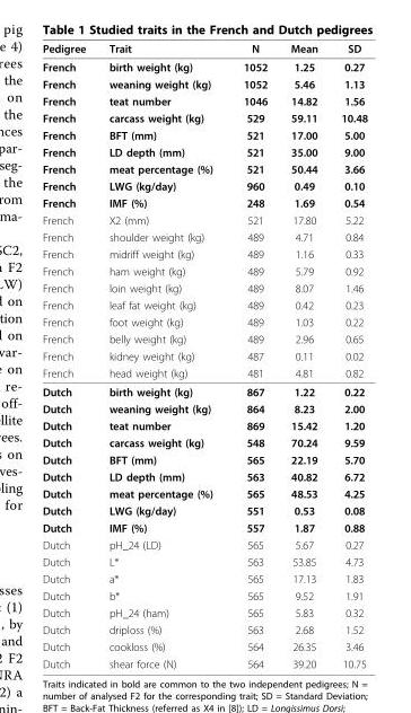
<table><thead><tr><td>Pedigree</td><td>Trait</td><td>N</td><td>Mean</td><td>SD</td></tr></thead><tbody><tr><td>French</td><td>birth weight (kg)</td><td>1052</td><td>1.25</td><td>0.27</td></tr><tr><td>French</td><td>weaning weight (kg)</td><td>1052</td><td>5.46</td><td>1.13</td></tr><tr><td>French</td><td>teat number</td><td>1046</td><td>14.82</td><td>1.56</td></tr><tr><td>French</td><td>carcass weight (kg)</td><td>529</td><td>59.11</td><td>10.48</td></tr><tr><td>French</td><td>BFT (mm)</td><td>521</td><td>17.00</td><td>5.00</td></tr><tr><td>French</td><td>LD depth (mm)</td><td>521</td><td>35.00</td><td>9.00</td></tr><tr><td>French</td><td>meat percentage (%)</td><td>521</td><td>50.44</td><td>3.66</td></tr><tr><td>French</td><td>LWG (kg/day)</td><td>960</td><td>0.49</td><td>0.10</td></tr><tr><td>French</td><td>IMF (%)</td><td>248</td><td>1.69</td><td>0.54</td></tr><tr><td>French</td><td>X2 (mm)</td><td>521</td><td>17.80</td><td>5.22</td></tr><tr><td>French</td><td>shoulder weight (kg)</td><td>489</td><td>4.71</td><td>0.84</td></tr><tr><td>French</td><td>midriff weight (kg)</td><td>489</td><td>1.16</td><td>0.33</td></tr><tr><td>French</td><td>ham weight (kg)</td><td>489</td><td>5.79</td><td>0.92</td></tr><tr><td>French</td><td>loin weight (kg)</td><td>489</td><td>8.07</td><td>1.46</td></tr><tr><td>French</td><td>leaf fat weight (kg)</td><td>489</td><td>0.42</td><td>0.23</td></tr><tr><td>French</td><td>foot weight (kg)</td><td>489</td><td>1.03</td><td>0.22</td></tr><tr><td>French</td><td>belly weight (kg)</td><td>489</td><td>2.96</td><td>0.65</td></tr><tr><td>French</td><td>kidney weight (kg)</td><td>487</td><td>0.11</td><td>0.02</td></tr><tr><td>French</td><td>head weight (kg)</td><td>481</td><td>4.81</td><td>0.82</td></tr><tr><td>Dutch</td><td>birth weight (kg)</td><td>867</td><td>1.22</td><td>0.22</td></tr><tr><td>Dutch</td><td>weaning weight (kg)</td><td>864</td><td>8.23</td><td>2.00</td></tr><tr><td>Dutch</td><td>teat number</td><td>869</td><td>15.42</td><td>1.20</td></tr><tr><td>Dutch</td><td>carcass weight (kg)</td><td>548</td><td>70.24</td><td>9.59</td></tr><tr><td>Dutch</td><td>BFT (mm)</td><td>565</td><td>22.19</td><td>5.70</td></tr><tr><td>Dutch</td><td>LD depth (mm)</td><td>563</td><td>40.82</td><td>6.72</td></tr><tr><td>Dutch</td><td>meat percentage (%)</td><td>565</td><td>48.53</td><td>4.25</td></tr><tr><td>Dutch</td><td>LWG (kg/day)</td><td>551</td><td>0.53</td><td>0.08</td></tr><tr><td>Dutch</td><td>IMF (%)</td><td>557</td><td>1.87</td><td>0.88</td></tr><tr><td>Dutch</td><td>pH_24 (LD)</td><td>565</td><td>5.67</td><td>0.27</td></tr><tr><td>Dutch</td><td>L*</td><td>563</td><td>53.85</td><td>4.73</td></tr><tr><td>Dutch</td><td>a*</td><td>565</td><td>17.13</td><td>1.83</td></tr><tr><td>Dutch</td><td>b*</td><td>565</td><td>9.52</td><td>1.91</td></tr><tr><td>Dutch</td><td>pH_24 (ham)</td><td>565</td><td>5.83</td><td>0.32</td></tr><tr><td>Dutch</td><td>driploss (%)</td><td>563</td><td>2.68</td><td>1.52</td></tr><tr><td>Dutch</td><td>cookloss (%)</td><td>564</td><td>26.35</td><td>3.46</td></tr><tr><td>Dutch</td><td>shear force (N)</td><td>564</td><td>39.20</td><td>10.75</td></tr></tbody></table>